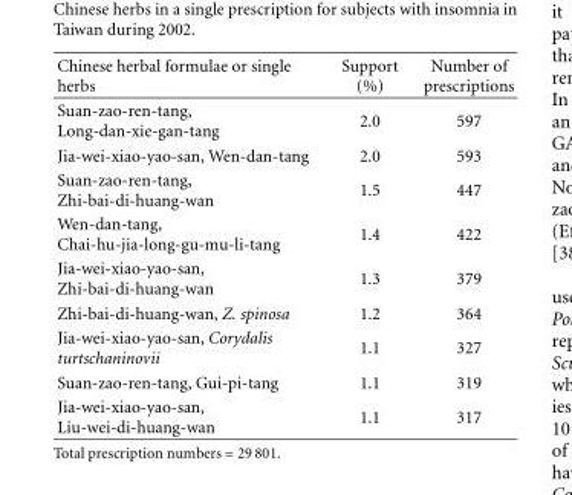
<table><thead><tr><td>Chinese herbal formulae or single herbs</td><td>Support (%)</td><td>Number of prescriptions</td></tr></thead><tbody><tr><td>Suan-zao-ren-tang, Long-dan-xie-gan-tang</td><td>2.0</td><td>597</td></tr><tr><td>Jia-wei-xiao-yao-san, Wen-dan-tang</td><td>2.0</td><td>593</td></tr><tr><td>Suan-zao-ren-tang, Zhi-bai-di-huang-wan</td><td>1.5</td><td>447</td></tr><tr><td>Wen-dan-tang, Chai-hu-jia-long-gu-mu-li-tang</td><td>1.4</td><td>422</td></tr><tr><td>Jia-wei-xiao-yao-san, Zhi-bai-di-huang-wan</td><td>1.3</td><td>379</td></tr><tr><td>Zhi-bai-di-huang-wan, Z. spinosa</td><td>1.2</td><td>364</td></tr><tr><td>Jia-wei-xiao-yao-san, Corydalis turtschaninovii</td><td>1.1</td><td>327</td></tr><tr><td>Suan-zao-ren-tang, Gui-pi-tang</td><td>1.1</td><td>319</td></tr><tr><td>Jia-wei-xiao-yao-san, Liu-wei-di-huang-wan</td><td>1.1</td><td>317</td></tr></tbody></table>